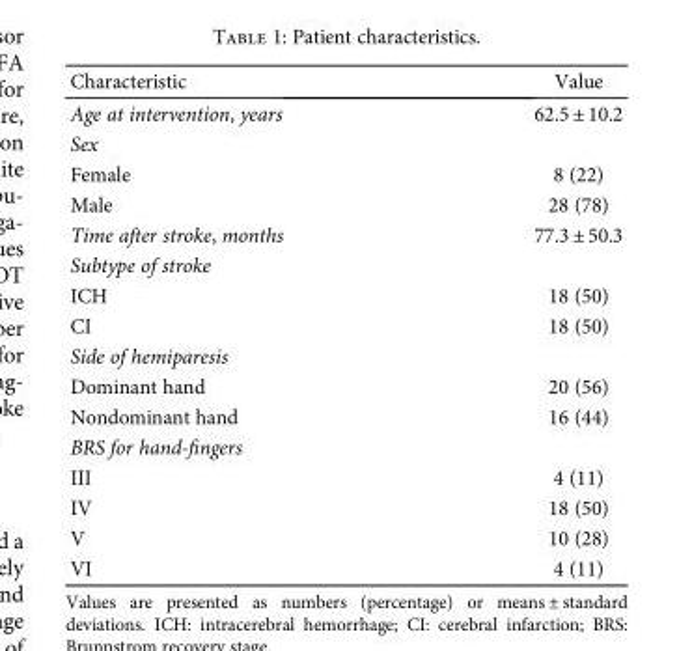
<table><thead><tr><td>Characteristic</td><td>Value</td></tr></thead><tbody><tr><td>Age at intervention, years</td><td>62.5 ± 10.2</td></tr><tr><td colspan="2">Sex</td></tr><tr><td>Female</td><td>8 (22)</td></tr><tr><td>Male</td><td>28 (78)</td></tr><tr><td>Time after stroke, months</td><td>77.3 ± 50.3</td></tr><tr><td colspan="2">Subtype of stroke</td></tr><tr><td>ICH</td><td>18 (50)</td></tr><tr><td>CI</td><td>18 (50)</td></tr><tr><td colspan="2">Side of hemiparesis</td></tr><tr><td>Dominant hand</td><td>20 (56)</td></tr><tr><td>Nondominant hand</td><td>16 (44)</td></tr><tr><td colspan="2">BRS for hand-fingers</td></tr><tr><td>III</td><td>4 (11)</td></tr><tr><td>IV</td><td>18 (50)</td></tr><tr><td>V</td><td>10 (28)</td></tr><tr><td>VI</td><td>4 (11)</td></tr></tbody></table>